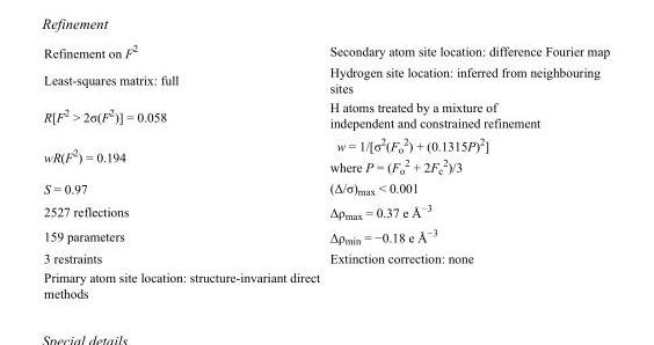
<table><tbody><tr><td>Refinement on F<sup>2</sup></td><td>Secondary atom site location: difference Fourier map</td></tr><tr><td>Least-squares matrix: full</td><td>Hydrogen site location: inferred from neighbouring sites</td></tr><tr><td>R[F<sup>2</sup> &gt; 2σ(F<sup>2</sup>)] = 0.058</td><td>H atoms treated by a mixture of independent and constrained refinement</td></tr><tr><td>wR(F<sup>2</sup>) = 0.194</td><td>w = 1/[σ<sup>2</sup>(F<sub>o</sub> <sup>2</sup>) + (0.1315P)<sup>2</sup>] where P = (F<sub>o</sub> <sup>2</sup> + 2F<sub>c</sub> <sup>2</sup>)/3</td></tr><tr><td>S = 0.97</td><td>(Δ/σ)<sub>max</sub> &lt; 0.001</td></tr><tr><td>2527 reflections</td><td>Δρ<sub>max</sub> = 0.37 e Å<sup>−3</sup></td></tr><tr><td>159 parameters</td><td>Δρ<sub>min</sub> = −0.18 e Å<sup>−3</sup></td></tr><tr><td>3 restraints</td><td>Extinction correction: none</td></tr><tr><td>Primary atom site location: structure-invariant direct methods</td><td></td></tr></tbody></table>